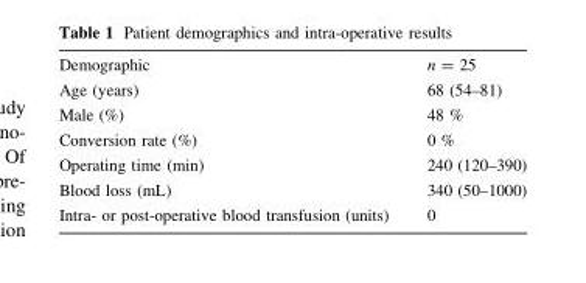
<table><tbody><tr><td>Demographic</td><td>n = 25</td></tr><tr><td>Age (years)</td><td>68 (54–81)</td></tr><tr><td>Male (%)</td><td>48 %</td></tr><tr><td>Conversion rate (%)</td><td>0 %</td></tr><tr><td>Operating time (min)</td><td>240 (120–390)</td></tr><tr><td>Blood loss (mL)</td><td>340 (50–1000)</td></tr><tr><td>Intra- or post-operative blood transfusion (units)</td><td>0</td></tr></tbody></table>